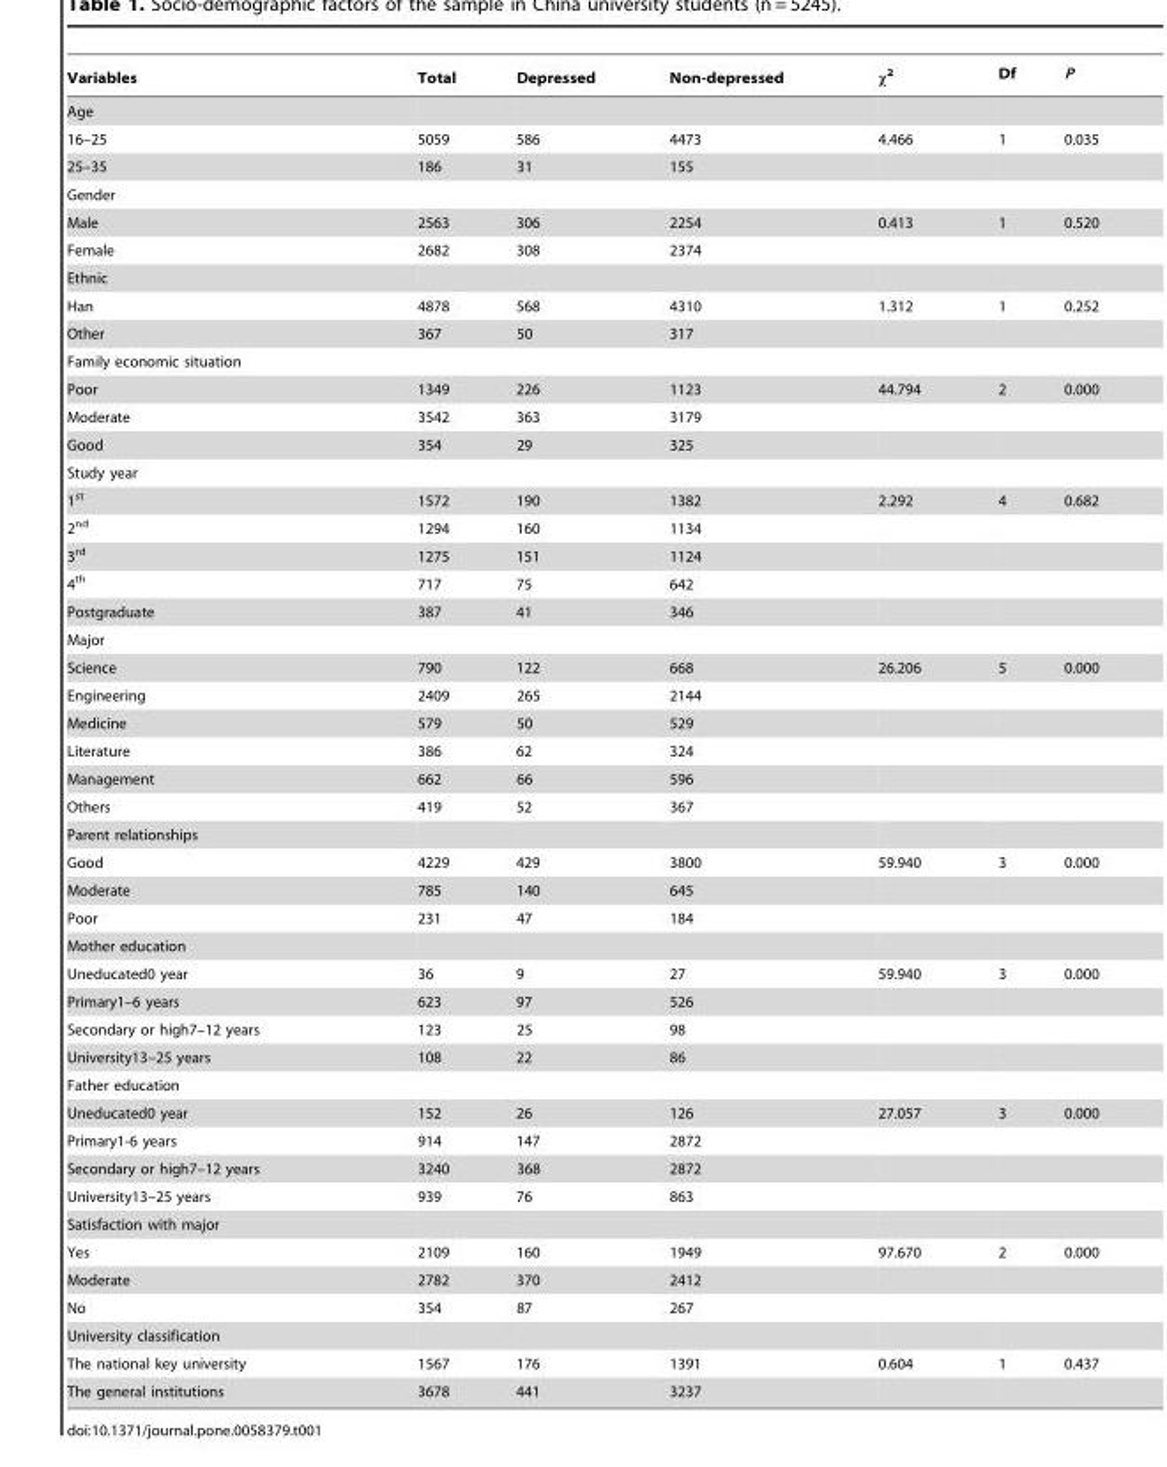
<table><thead><tr><td>Variables</td><td>Total</td><td>Depressed</td><td>Non-depressed</td><td>χ<sup>2</sup></td><td>Df</td><td>P</td></tr></thead><tbody><tr><td colspan="7">Age</td></tr><tr><td>16–25</td><td>5059</td><td>586</td><td>4473</td><td>4.466</td><td>1</td><td>0.035</td></tr><tr><td>25–35</td><td>186</td><td>31</td><td>155</td><td></td><td></td><td></td></tr><tr><td colspan="7">Gender</td></tr><tr><td>Male</td><td>2563</td><td>306</td><td>2254</td><td>0.413</td><td>1</td><td>0.520</td></tr><tr><td>Female</td><td>2682</td><td>308</td><td>2374</td><td></td><td></td><td></td></tr><tr><td colspan="7">Ethnic</td></tr><tr><td>Han</td><td>4878</td><td>568</td><td>4310</td><td>1.312</td><td>1</td><td>0.252</td></tr><tr><td>Other</td><td>367</td><td>50</td><td>317</td><td></td><td></td><td></td></tr><tr><td colspan="7">Family economic situation</td></tr><tr><td>Poor</td><td>1349</td><td>226</td><td>1123</td><td>44.794</td><td>2</td><td>0.000</td></tr><tr><td>Moderate</td><td>3542</td><td>363</td><td>3179</td><td></td><td></td><td></td></tr><tr><td>Good</td><td>354</td><td>29</td><td>325</td><td></td><td></td><td></td></tr><tr><td colspan="7">Study year</td></tr><tr><td>1<sup>st</sup></td><td>1572</td><td>190</td><td>1382</td><td>2.292</td><td>4</td><td>0.682</td></tr><tr><td>2<sup>nd</sup></td><td>1294</td><td>160</td><td>1134</td><td></td><td></td><td></td></tr><tr><td>3<sup>rd</sup></td><td>1275</td><td>151</td><td>1124</td><td></td><td></td><td></td></tr><tr><td>4<sup>th</sup></td><td>717</td><td>75</td><td>642</td><td></td><td></td><td></td></tr><tr><td>Postgraduate</td><td>387</td><td>41</td><td>346</td><td></td><td></td><td></td></tr><tr><td colspan="7">Major</td></tr><tr><td>Science</td><td>790</td><td>122</td><td>668</td><td>26.206</td><td>5</td><td>0.000</td></tr><tr><td>Engineering</td><td>2409</td><td>265</td><td>2144</td><td></td><td></td><td></td></tr><tr><td>Medicine</td><td>579</td><td>50</td><td>529</td><td></td><td></td><td></td></tr><tr><td>Literature</td><td>386</td><td>62</td><td>324</td><td></td><td></td><td></td></tr><tr><td>Management</td><td>662</td><td>66</td><td>596</td><td></td><td></td><td></td></tr><tr><td>Others</td><td>419</td><td>52</td><td>367</td><td></td><td></td><td></td></tr><tr><td colspan="7">Parent relationships</td></tr><tr><td>Good</td><td>4229</td><td>429</td><td>3800</td><td>59.940</td><td>3</td><td>0.000</td></tr><tr><td>Moderate</td><td>785</td><td>140</td><td>645</td><td></td><td></td><td></td></tr><tr><td>Poor</td><td>231</td><td>47</td><td>184</td><td></td><td></td><td></td></tr><tr><td colspan="7">Mother education</td></tr><tr><td>Uneducated0 year</td><td>36</td><td>9</td><td>27</td><td>59.940</td><td>3</td><td>0.000</td></tr><tr><td>Primary1–6 years</td><td>623</td><td>97</td><td>526</td><td></td><td></td><td></td></tr><tr><td>Secondary or high7–12 years</td><td>123</td><td>25</td><td>98</td><td></td><td></td><td></td></tr><tr><td>University13–25 years</td><td>108</td><td>22</td><td>86</td><td></td><td></td><td></td></tr><tr><td colspan="7">Father education</td></tr><tr><td>Uneducated0 year</td><td>152</td><td>26</td><td>126</td><td>27.057</td><td>3</td><td>0.000</td></tr><tr><td>Primary1-6 years</td><td>914</td><td>147</td><td>2872</td><td></td><td></td><td></td></tr><tr><td>Secondary or high7–12 years</td><td>3240</td><td>368</td><td>2872</td><td></td><td></td><td></td></tr><tr><td>University13–25 years</td><td>939</td><td>76</td><td>863</td><td></td><td></td><td></td></tr><tr><td colspan="7">Satisfaction with major</td></tr><tr><td>Yes</td><td>2109</td><td>160</td><td>1949</td><td>97.670</td><td>2</td><td>0.000</td></tr><tr><td>Moderate</td><td>2782</td><td>370</td><td>2412</td><td></td><td></td><td></td></tr><tr><td>No</td><td>354</td><td>87</td><td>267</td><td></td><td></td><td></td></tr><tr><td colspan="7">University classification</td></tr><tr><td>The national key university</td><td>1567</td><td>176</td><td>1391</td><td>0.604</td><td>1</td><td>0.437</td></tr><tr><td>The general institutions</td><td>3678</td><td>441</td><td>3237</td><td></td><td></td><td></td></tr></tbody></table>